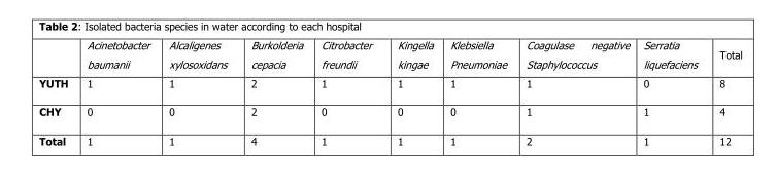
<table><thead><tr><td></td><td>Acinetobacter baumanii</td><td>Alcaligenes xylosoxidans</td><td>Burkolderia cepacia</td><td>Citrobacter freundii</td><td>Kingella kingae</td><td>Klebsiella Pneumoniae</td><td>Coagulase negative Staphylococcus</td><td>Serratia liquefaciens</td><td>Total</td></tr></thead><tbody><tr><td>YUTH</td><td>1</td><td>1</td><td>2</td><td>1</td><td>1</td><td>1</td><td>1</td><td>0</td><td>8</td></tr><tr><td>CHY</td><td>0</td><td>0</td><td>2</td><td>0</td><td>0</td><td>0</td><td>1</td><td>1</td><td>4</td></tr><tr><td>Total</td><td>1</td><td>1</td><td>4</td><td>1</td><td>1</td><td>1</td><td>2</td><td>1</td><td>12</td></tr></tbody></table>